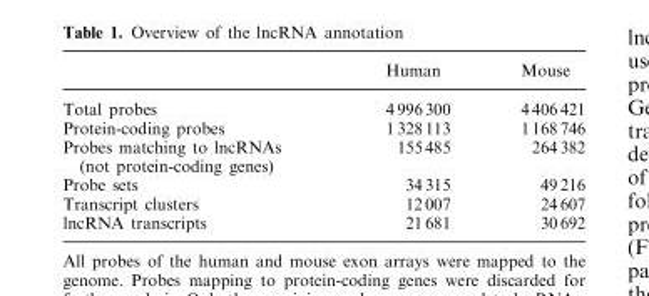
<table><thead><tr><td></td><td>Human</td><td>Mouse</td></tr></thead><tbody><tr><td>Total probes</td><td>4 996 300</td><td>4 406 421</td></tr><tr><td>Protein-coding probes</td><td>1 328 113</td><td>1 168 746</td></tr><tr><td>Probes matching to lncRNAs (not protein-coding genes)</td><td>155 485</td><td>264 382</td></tr><tr><td>Probe sets</td><td>34 315</td><td>49 216</td></tr><tr><td>Transcript clusters</td><td>12 007</td><td>24 607</td></tr><tr><td>lncRNA transcripts</td><td>21 681</td><td>30 692</td></tr></tbody></table>